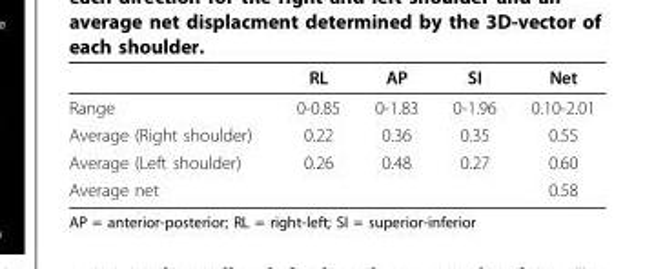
<table><thead><tr><td></td><td>RL</td><td>AP</td><td>SI</td><td>Net</td></tr></thead><tbody><tr><td>Range</td><td>0-0.85</td><td>0-1.83</td><td>0-1.96</td><td>0.10-2.01</td></tr><tr><td>Average (Right shoulder)</td><td>0.22</td><td>0.36</td><td>0.35</td><td>0.55</td></tr><tr><td>Average (Left shoulder)</td><td>0.26</td><td>0.48</td><td>0.27</td><td>0.60</td></tr><tr><td>Average net</td><td></td><td></td><td></td><td>0.58</td></tr></tbody></table>